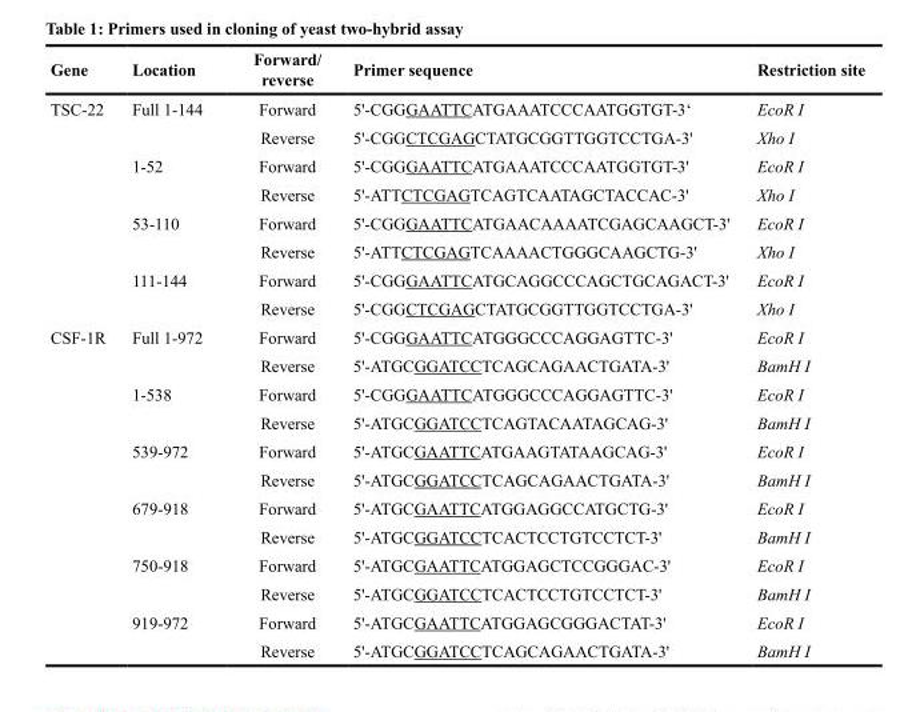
<table><thead><tr><td>Gene</td><td>Location</td><td>Forward/ reverse</td><td>Primer sequence</td><td>Restriction site</td></tr></thead><tbody><tr><td rowspan="8">TSC-22</td><td>Full 1-144</td><td>Forward</td><td>5&#x27;-CGGGAATTCATGAAATCCCAATGGTGT-3‘</td><td>EcoR I</td></tr><tr><td></td><td>Reverse</td><td>5&#x27;-CGGCTCGAGCTATGCGGTTGGTCCTGA-3&#x27;</td><td>Xho I</td></tr><tr><td>1-52</td><td>Forward</td><td>5&#x27;-CGGGAATTCATGAAATCCCAATGGTGT-3&#x27;</td><td>EcoR I</td></tr><tr><td></td><td>Reverse</td><td>5&#x27;-ATTCTCGAGTCAGTCAATAGCTACCAC-3&#x27;</td><td>Xho I</td></tr><tr><td>53-110</td><td>Forward</td><td>5&#x27;-CGGGAATTCATGAACAAAATCGAGCAAGCT-3&#x27;</td><td>EcoR I</td></tr><tr><td></td><td>Reverse</td><td>5&#x27;-ATTCTCGAGTCAAAACTGGGCAAGCTG-3&#x27;</td><td>Xho I</td></tr><tr><td>111-144</td><td>Forward</td><td>5&#x27;-CGGGAATTCATGCAGGCCCAGCTGCAGACT-3&#x27;</td><td>EcoR I</td></tr><tr><td></td><td>Reverse</td><td>5&#x27;-CGGCTCGAGCTATGCGGTTGGTCCTGA-3&#x27;</td><td>Xho I</td></tr><tr><td rowspan="12">CSF-1R</td><td>Full 1-972</td><td>Forward</td><td>5&#x27;-CGGGAATTCATGGGCCCAGGAGTTC-3&#x27;</td><td>EcoR I</td></tr><tr><td></td><td>Reverse</td><td>5&#x27;-ATGCGGATCCTCAGCAGAACTGATA-3&#x27;</td><td>BamH I</td></tr><tr><td>1-538</td><td>Forward</td><td>5&#x27;-CGGGAATTCATGGGCCCAGGAGTTC-3&#x27;</td><td>EcoR I</td></tr><tr><td></td><td>Reverse</td><td>5&#x27;-ATGCGGATCCTCAGTACAATAGCAG-3&#x27;</td><td>BamH I</td></tr><tr><td>539-972</td><td>Forward</td><td>5&#x27;-ATGCGAATTCATGAAGTATAAGCAG-3&#x27;</td><td>EcoR I</td></tr><tr><td></td><td>Reverse</td><td>5&#x27;-ATGCGGATCCTCAGCAGAACTGATA-3&#x27;</td><td>BamH I</td></tr><tr><td>679-918</td><td>Forward</td><td>5&#x27;-ATGCGAATTCATGGAGGCCATGCTG-3&#x27;</td><td>EcoR I</td></tr><tr><td></td><td>Reverse</td><td>5&#x27;-ATGCGGATCCTCACTCCTGTCCTCT-3&#x27;</td><td>BamH I</td></tr><tr><td>750-918</td><td>Forward</td><td>5&#x27;-ATGCGAATTCATGGAGCTCCGGGAC-3&#x27;</td><td>EcoR I</td></tr><tr><td></td><td>Reverse</td><td>5&#x27;-ATGCGGATCCTCACTCCTGTCCTCT-3&#x27;</td><td>BamH I</td></tr><tr><td>919-972</td><td>Forward</td><td>5&#x27;-ATGCGAATTCATGGAGCGGGACTAT-3&#x27;</td><td>EcoR I</td></tr><tr><td></td><td>Reverse</td><td>5&#x27;-ATGCGGATCCTCAGCAGAACTGATA-3&#x27;</td><td>BamH I</td></tr></tbody></table>